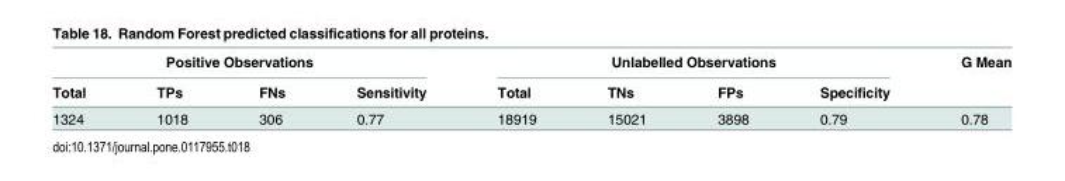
<table><thead><tr><td colspan="4">Positive Observations</td><td colspan="4">Unlabelled Observations</td><td rowspan="2">G Mean</td></tr><tr><td>Total</td><td>TPs</td><td>FNs</td><td>Sensitivity</td><td>Total</td><td>TNs</td><td>FPs</td><td>Specificity</td></tr></thead><tbody><tr><td>1324</td><td>1018</td><td>306</td><td>0.77</td><td>18919</td><td>15021</td><td>3898</td><td>0.79</td><td>0.78</td></tr></tbody></table>